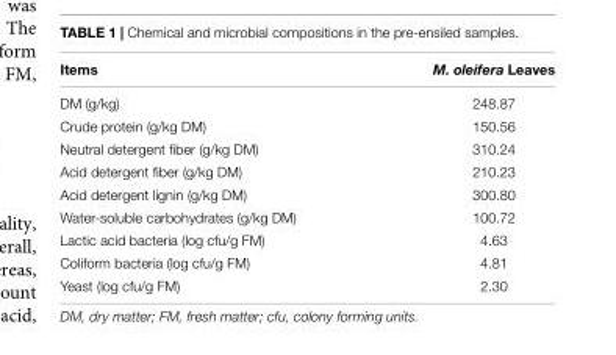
<table><thead><tr><td>Items</td><td>M. oleifera Leaves</td></tr></thead><tbody><tr><td>DM (g/kg)</td><td>248.87</td></tr><tr><td>Crude protein (g/kg DM)</td><td>150.56</td></tr><tr><td>Neutral detergent fiber (g/kg DM)</td><td>310.24</td></tr><tr><td>Acid detergent fiber (g/kg DM)</td><td>210.23</td></tr><tr><td>Acid detergent lignin (g/kg DM)</td><td>300.80</td></tr><tr><td>Water-soluble carbohydrates (g/kg DM)</td><td>100.72</td></tr><tr><td>Lactic acid bacteria (log cfu/g FM)</td><td>4.63</td></tr><tr><td>Coliform bacteria (log cfu/g FM)</td><td>4.81</td></tr><tr><td>Yeast (log cfu/g FM)</td><td>2.30</td></tr></tbody></table>